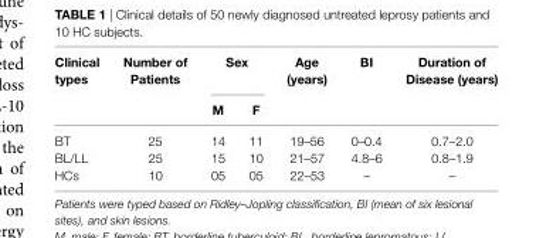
<table><thead><tr><td rowspan="2">clinical types</td><td rowspan="2">number of Patients</td><td colspan="2">sex</td><td rowspan="2">age (years)</td><td rowspan="2">Bi</td><td rowspan="2">Duration of Disease (years)</td></tr><tr><td>M</td><td>F</td></tr></thead><tbody><tr><td>BT</td><td>25</td><td>14</td><td>11</td><td>19–56</td><td>0–0.4</td><td>0.7–2.0</td></tr><tr><td>BL/LL</td><td>25</td><td>15</td><td>10</td><td>21–57</td><td>4.8–6</td><td>0.8–1.9</td></tr><tr><td>HCs</td><td>10</td><td>05</td><td>05</td><td>22–53</td><td>–</td><td>–</td></tr></tbody></table>